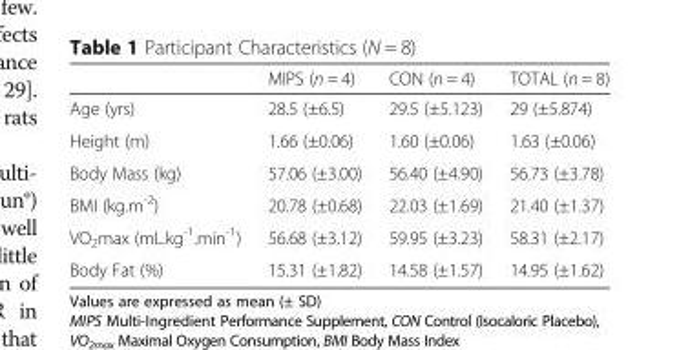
<table><thead><tr><td></td><td>MIPS (n = 4)</td><td>CON (n = 4)</td><td>TOTAL (n = 8)</td></tr></thead><tbody><tr><td>Age (yrs)</td><td>28.5 (±6.5)</td><td>29.5 (±5.123)</td><td>29 (±5.874)</td></tr><tr><td>Height (m)</td><td>1.66 (±0.06)</td><td>1.60 (±0.06)</td><td>1.63 (±0.06)</td></tr><tr><td>Body Mass (kg)</td><td>57.06 (±3.00)</td><td>56.40 (±4.90)</td><td>56.73 (±3.78)</td></tr><tr><td>BMI (kg.m<sup>-2</sup>)</td><td>20.78 (±0.68)</td><td>22.03 (±1.69)</td><td>21.40 (±1.37)</td></tr><tr><td>VO<sub>2</sub>max (mL.kg<sup>-1</sup>.min<sup>-1</sup>)</td><td>56.68 (±3.12)</td><td>59.95 (±3.23)</td><td>58.31 (±2.17)</td></tr><tr><td>Body Fat (%)</td><td>15.31 (±1.82)</td><td>14.58 (±1.57)</td><td>14.95 (±1.62)</td></tr></tbody></table>